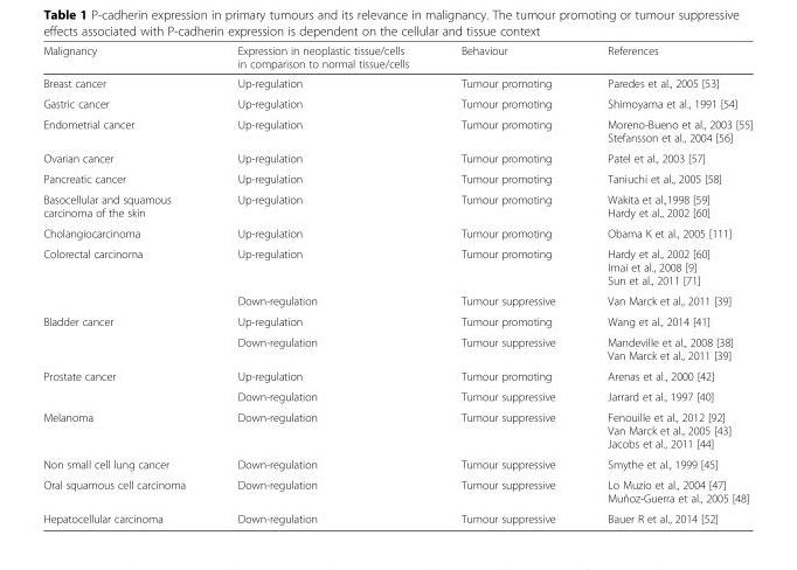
<table><thead><tr><td>Malignancy</td><td>Expression in neoplastic tissue/cells in comparison to normal tissue/cells</td><td>Behaviour</td><td>References</td></tr></thead><tbody><tr><td>Breast cancer</td><td>Up-regulation</td><td>Tumour promoting</td><td>Paredes et al., 2005 [53]</td></tr><tr><td>Gastric cancer</td><td>Up-regulation</td><td>Tumour promoting</td><td>Shimoyama et al., 1991 [54]</td></tr><tr><td>Endometrial cancer</td><td>Up-regulation</td><td>Tumour promoting</td><td>Moreno-Bueno et al., 2003 [55] Stefansson et al., 2004 [56]</td></tr><tr><td>Ovarian cancer</td><td>Up-regulation</td><td>Tumour promoting</td><td>Patel et al., 2003 [57]</td></tr><tr><td>Pancreatic cancer</td><td>Up-regulation</td><td>Tumour promoting</td><td>Taniuchi et al., 2005 [58]</td></tr><tr><td>Basocellular and squamous carcinoma of the skin</td><td>Up-regulation</td><td>Tumour promoting</td><td>Wakita et al.,1998 [59] Hardy et al., 2002 [60]</td></tr><tr><td>Cholangiocarcinoma</td><td>Up-regulation</td><td>Tumour promoting</td><td>Obama K et al., 2005 [111]</td></tr><tr><td rowspan="2">Colorectal carcinoma</td><td>Up-regulation</td><td>Tumour promoting</td><td>Hardy et al., 2002 [60] Imai et al., 2008 [9] Sun et al., 2011 [71]</td></tr><tr><td>Down-regulation</td><td>Tumour suppressive</td><td>Van Marck et al., 2011 [39]</td></tr><tr><td rowspan="2">Bladder cancer</td><td>Up-regulation</td><td>Tumour promoting</td><td>Wang et al., 2014 [41]</td></tr><tr><td>Down-regulation</td><td>Tumour suppressive</td><td>Mandeville et al., 2008 [38] Van Marck et al., 2011 [39]</td></tr><tr><td rowspan="2">Prostate cancer</td><td>Up-regulation</td><td>Tumour promoting</td><td>Arenas et al., 2000 [42]</td></tr><tr><td>Down-regulation</td><td>Tumour suppressive</td><td>Jarrard et al., 1997 [40]</td></tr><tr><td>Melanoma</td><td>Down-regulation</td><td>Tumour suppressive</td><td>Fenouille et al., 2012 [92] Van Marck et al., 2005 [43] Jacobs et al., 2011 [44]</td></tr><tr><td>Non small cell lung cancer</td><td>Down-regulation</td><td>Tumour suppressive</td><td>Smythe et al., 1999 [45]</td></tr><tr><td>Oral squamous cell carcinoma</td><td>Down-regulation</td><td>Tumour suppressive</td><td>Lo Muzio et al., 2004 [47] Muñoz-Guerra et al., 2005 [48]</td></tr><tr><td>Hepatocellular carcinoma</td><td>Down-regulation</td><td>Tumour suppressive</td><td>Bauer R et al., 2014 [52]</td></tr></tbody></table>